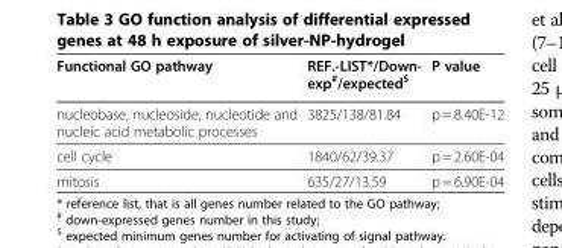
<table><thead><tr><td>Functional GO pathway</td><td>REF.-LIST*/Down- exp<sup>#</sup>/expected<sup>$</sup></td><td>P value</td></tr></thead><tbody><tr><td>nucleobase, nucleoside, nucleotide and nucleic acid metabolic processes</td><td>3825/138/81.84</td><td>p = 8.40E-12</td></tr><tr><td>cell cycle</td><td>1840/62/39.37</td><td>p = 2.60E-04</td></tr><tr><td>mitosis</td><td>635/27/13.59</td><td>p = 6.90E-04</td></tr></tbody></table>